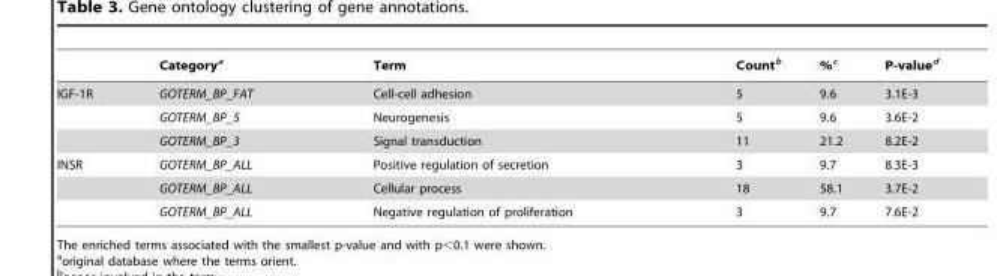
<table><thead><tr><td></td><td>Category<sup>a</sup></td><td>Term</td><td>Count<sup>b</sup></td><td>%<sup>c</sup></td><td>P-value<sup>d</sup></td></tr></thead><tbody><tr><td rowspan="3">IGF-1R</td><td>GOTERM_BP_FAT</td><td>Cell-cell adhesion</td><td>5</td><td>9.6</td><td>3.1E-3</td></tr><tr><td>GOTERM_BP_5</td><td>Neurogenesis</td><td>5</td><td>9.6</td><td>3.6E-2</td></tr><tr><td>GOTERM_BP_3</td><td>Signal transduction</td><td>11</td><td>21.2</td><td>8.2E-2</td></tr><tr><td rowspan="3">INSR</td><td>GOTERM_BP_ALL</td><td>Positive regulation of secretion</td><td>3</td><td>9.7</td><td>8.3E-3</td></tr><tr><td>GOTERM_BP_ALL</td><td>Cellular process</td><td>18</td><td>58.1</td><td>3.7E-2</td></tr><tr><td>GOTERM_BP_ALL</td><td>Negative regulation of proliferation</td><td>3</td><td>9.7</td><td>7.6E-2</td></tr></tbody></table>